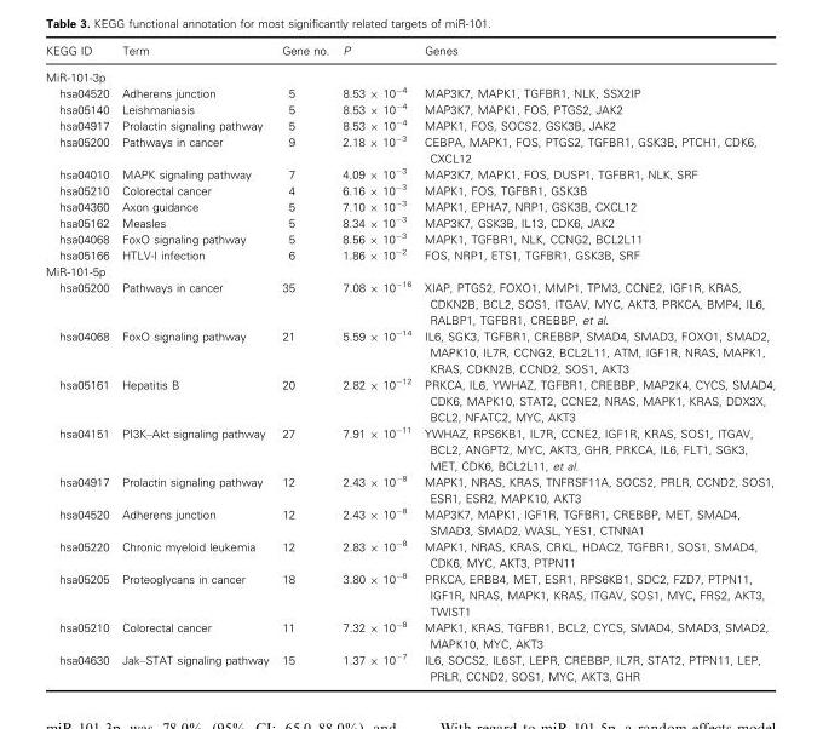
<table><thead><tr><td>KEGG ID</td><td>Term</td><td>Gene no.</td><td>P</td><td>Genes</td></tr></thead><tbody><tr><td colspan="5">MiR-101-3p</td></tr><tr><td>hsa04520</td><td>Adherens junction</td><td>5</td><td>8.53 × 10<sup>−4</sup></td><td>MAP3K7, MAPK1, TGFBR1, NLK, SSX2IP</td></tr><tr><td>hsa05140</td><td>Leishmaniasis</td><td>5</td><td>8.53 × 10<sup>−4</sup></td><td>MAP3K7, MAPK1, FOS, PTGS2, JAK2</td></tr><tr><td>hsa04917</td><td>Prolactin signaling pathway</td><td>5</td><td>8.53 × 10<sup>−4</sup></td><td>MAPK1, FOS, SOCS2, GSK3B, JAK2</td></tr><tr><td>hsa05200</td><td>Pathways in cancer</td><td>9</td><td>2.18 × 10<sup>−3</sup></td><td>CEBPA, MAPK1, FOS, PTGS2, TGFBR1, GSK3B, PTCH1, CDK6, CXCL12</td></tr><tr><td>hsa04010</td><td>MAPK signaling pathway</td><td>7</td><td>4.09 × 10<sup>−3</sup></td><td>MAP3K7, MAPK1, FOS, DUSP1, TGFBR1, NLK, SRF</td></tr><tr><td>hsa05210</td><td>Colorectal cancer</td><td>4</td><td>6.16 × 10<sup>−3</sup></td><td>MAPK1, FOS, TGFBR1, GSK3B</td></tr><tr><td>hsa04360</td><td>Axon guidance</td><td>5</td><td>7.10 × 10<sup>−3</sup></td><td>MAPK1, EPHA7, NRP1, GSK3B, CXCL12</td></tr><tr><td>hsa05162</td><td>Measles</td><td>5</td><td>8.34 × 10<sup>−3</sup></td><td>MAP3K7, GSK3B, IL13, CDK6, JAK2</td></tr><tr><td>hsa04068</td><td>FoxO signaling pathway</td><td>5</td><td>8.56 × 10<sup>−3</sup></td><td>MAPK1, TGFBR1, NLK, CCNG2, BCL2L11</td></tr><tr><td>hsa05166</td><td>HTLV-I infection</td><td>6</td><td>1.86 × 10<sup>−2</sup></td><td>FOS, NRP1, ETS1, TGFBR1, GSK3B, SRF</td></tr><tr><td colspan="5">MiR-101-5p</td></tr><tr><td>hsa05200</td><td>Pathways in cancer</td><td>35</td><td>7.08 × 10<sup>−16</sup></td><td>XIAP, PTGS2, FOXO1, MMP1, TPM3, CCNE2, IGF1R, KRAS, CDKN2B, BCL2, SOS1, ITGAV, MYC, AKT3, PRKCA, BMP4, IL6, RALBP1, TGFBR1, CREBBP, et al.</td></tr><tr><td>hsa04068</td><td>FoxO signaling pathway</td><td>21</td><td>5.59 × 10<sup>−14</sup></td><td>IL6, SGK3, TGFBR1, CREBBP, SMAD4, SMAD3, FOXO1, SMAD2, MAPK10, IL7R, CCNG2, BCL2L11, ATM, IGF1R, NRAS, MAPK1, KRAS, CDKN2B, CCND2, SOS1, AKT3</td></tr><tr><td>hsa05161</td><td>Hepatitis B</td><td>20</td><td>2.82 × 10<sup>−12</sup></td><td>PRKCA, IL6, YWHAZ, TGFBR1, CREBBP, MAP2K4, CYCS, SMAD4, CDK6, MAPK10, STAT2, CCNE2, NRAS, MAPK1, KRAS, DDX3X, BCL2, NFATC2, MYC, AKT3</td></tr><tr><td>hsa04151</td><td>PI3K–Akt signaling pathway</td><td>27</td><td>7.91 × 10<sup>−11</sup></td><td>YWHAZ, RPS6KB1, IL7R, CCNE2, IGF1R, KRAS, SOS1, ITGAV, BCL2, ANGPT2, MYC, AKT3, GHR, PRKCA, IL6, FLT1, SGK3, MET, CDK6, BCL2L11, et al.</td></tr><tr><td>hsa04917</td><td>Prolactin signaling pathway</td><td>12</td><td>2.43 × 10<sup>−8</sup></td><td>MAPK1, NRAS, KRAS, TNFRSF11A, SOCS2, PRLR, CCND2, SOS1, ESR1, ESR2, MAPK10, AKT3</td></tr><tr><td>hsa04520</td><td>Adherens junction</td><td>12</td><td>2.43 × 10<sup>−8</sup></td><td>MAP3K7, MAPK1, IGF1R, TGFBR1, CREBBP, MET, SMAD4, SMAD3, SMAD2, WASL, YES1, CTNNA1</td></tr><tr><td>hsa05220</td><td>Chronic myeloid leukemia</td><td>12</td><td>2.83 × 10<sup>−8</sup></td><td>MAPK1, NRAS, KRAS, CRKL, HDAC2, TGFBR1, SOS1, SMAD4, CDK6, MYC, AKT3, PTPN11</td></tr><tr><td>hsa05205</td><td>Proteoglycans in cancer</td><td>18</td><td>3.80 × 10<sup>−8</sup></td><td>PRKCA, ERBB4, MET, ESR1, RPS6KB1, SDC2, FZD7, PTPN11, IGF1R, NRAS, MAPK1, KRAS, ITGAV, SOS1, MYC, FRS2, AKT3, TWIST1</td></tr><tr><td>hsa05210</td><td>Colorectal cancer</td><td>11</td><td>7.32 × 10<sup>−8</sup></td><td>MAPK1, KRAS, TGFBR1, BCL2, CYCS, SMAD4, SMAD3, SMAD2, MAPK10, MYC, AKT3</td></tr><tr><td>hsa04630</td><td>Jak–STAT signaling pathway</td><td>15</td><td>1.37 × 10<sup>−7</sup></td><td>IL6, SOCS2, IL6ST, LEPR, CREBBP, IL7R, STAT2, PTPN11, LEP, PRLR, CCND2, SOS1, MYC, AKT3, GHR</td></tr></tbody></table>